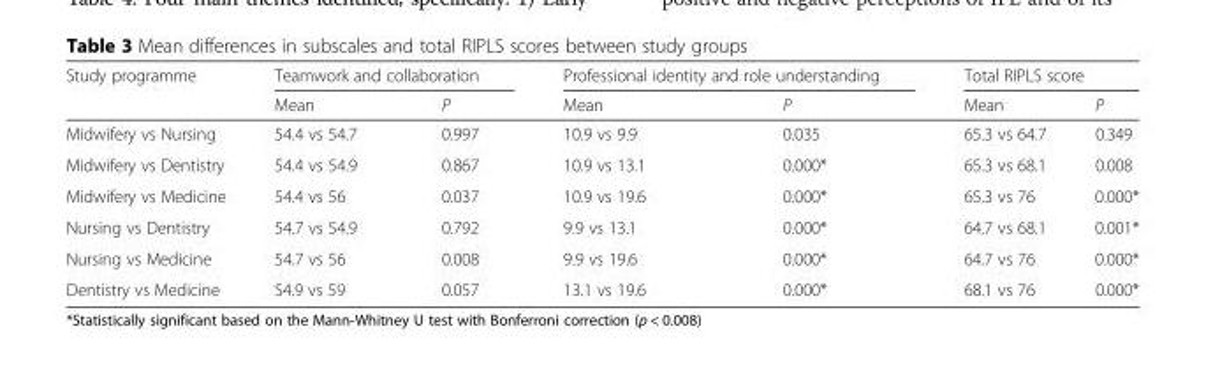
<table><thead><tr><td rowspan="2">Study programme</td><td colspan="2">Teamwork and collaboration</td><td colspan="2">Professional identity and role understanding</td><td colspan="2">Total RIPLS score</td></tr><tr><td>Mean</td><td>P</td><td>Mean</td><td>P</td><td>Mean</td><td>P</td></tr></thead><tbody><tr><td>Midwifery vs Nursing</td><td>54.4 vs 54.7</td><td>0.997</td><td>10.9 vs 9.9</td><td>0.035</td><td>65.3 vs 64.7</td><td>0.349</td></tr><tr><td>Midwifery vs Dentistry</td><td>54.4 vs 54.9</td><td>0.867</td><td>10.9 vs 13.1</td><td>0.000*</td><td>65.3 vs 68.1</td><td>0.008</td></tr><tr><td>Midwifery vs Medicine</td><td>54.4 vs 56</td><td>0.037</td><td>10.9 vs 19.6</td><td>0.000*</td><td>65.3 vs 76</td><td>0.000*</td></tr><tr><td>Nursing vs Dentistry</td><td>54.7 vs 54.9</td><td>0.792</td><td>9.9 vs 13.1</td><td>0.000*</td><td>64.7 vs 68.1</td><td>0.001*</td></tr><tr><td>Nursing vs Medicine</td><td>54.7 vs 56</td><td>0.008</td><td>9.9 vs 19.6</td><td>0.000*</td><td>64.7 vs 76</td><td>0.000*</td></tr><tr><td>Dentistry vs Medicine</td><td>S4.9 vs 59</td><td>0.057</td><td>13.1 vs 19.6</td><td>0.000*</td><td>68.1 vs 76</td><td>0.000*</td></tr></tbody></table>